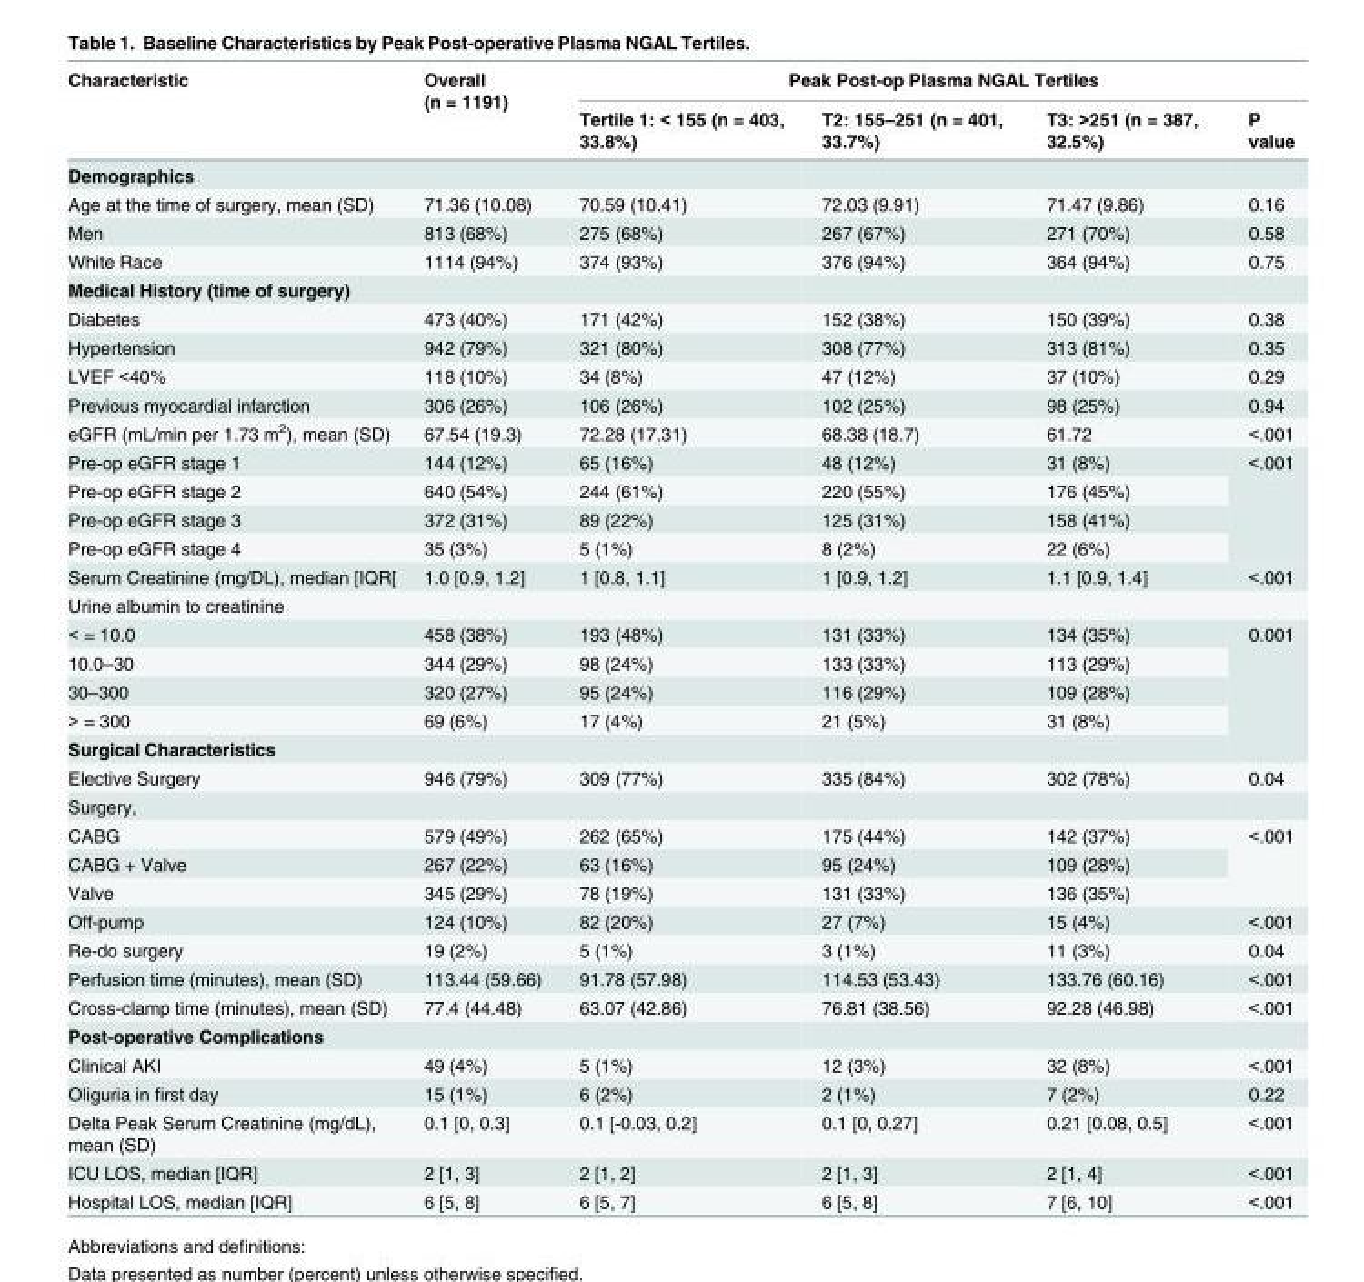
<table><thead><tr><td rowspan="2">Characteristic</td><td rowspan="2">Overall (n = 1191)</td><td colspan="4">Peak Post-op Plasma NGAL Tertiles</td></tr><tr><td>Tertile 1: &lt; 155 (n = 403, 33.8%)</td><td>T2: 155–251 (n = 401, 33.7%)</td><td>T3: &gt;251 (n = 387, 32.5%)</td><td>P value</td></tr></thead><tbody><tr><td colspan="6">Demographics</td></tr><tr><td>Age at the time of surgery, mean (SD)</td><td>71.36 (10.08)</td><td>70.59 (10.41)</td><td>72.03 (9.91)</td><td>71.47 (9.86)</td><td>0.16</td></tr><tr><td>Men</td><td>813 (68%)</td><td>275 (68%)</td><td>267 (67%)</td><td>271 (70%)</td><td>0.58</td></tr><tr><td>White Race</td><td>1114 (94%)</td><td>374 (93%)</td><td>376 (94%)</td><td>364 (94%)</td><td>0.75</td></tr><tr><td colspan="6">Medical History (time of surgery)</td></tr><tr><td>Diabetes</td><td>473 (40%)</td><td>171 (42%)</td><td>152 (38%)</td><td>150 (39%)</td><td>0.38</td></tr><tr><td>Hypertension</td><td>942 (79%)</td><td>321 (80%)</td><td>308 (77%)</td><td>313 (81%)</td><td>0.35</td></tr><tr><td>LVEF &lt;40%</td><td>118 (10%)</td><td>34 (8%)</td><td>47 (12%)</td><td>37 (10%)</td><td>0.29</td></tr><tr><td>Previous myocardial infarction</td><td>306 (26%)</td><td>106 (26%)</td><td>102 (25%)</td><td>98 (25%)</td><td>0.94</td></tr><tr><td>eGFR (mL/min per 1.73 m<sup>2</sup>), mean (SD)</td><td>67.54 (19.3)</td><td>72.28 (17.31)</td><td>68.38 (18.7)</td><td>61.72</td><td>&lt;.001</td></tr><tr><td>Pre-op eGFR stage 1</td><td>144 (12%)</td><td>65 (16%)</td><td>48 (12%)</td><td>31 (8%)</td><td rowspan="4">&lt;.001</td></tr><tr><td>Pre-op eGFR stage 2</td><td>640 (54%)</td><td>244 (61%)</td><td>220 (55%)</td><td>176 (45%)</td></tr><tr><td>Pre-op eGFR stage 3</td><td>372 (31%)</td><td>89 (22%)</td><td>125 (31%)</td><td>158 (41%)</td></tr><tr><td>Pre-op eGFR stage 4</td><td>35 (3%)</td><td>5 (1%)</td><td>8 (2%)</td><td>22 (6%)</td></tr><tr><td>Serum Creatinine (mg/DL), median [IQR[</td><td>1.0 [0.9, 1.2]</td><td>1 [0.8, 1.1]</td><td>1 [0.9, 1.2]</td><td>1.1 [0.9, 1.4]</td><td>&lt;.001</td></tr><tr><td colspan="6">Urine albumin to creatinine</td></tr><tr><td>&lt; = 10.0</td><td>458 (38%)</td><td>193 (48%)</td><td>131 (33%)</td><td>134 (35%)</td><td rowspan="4">0.001</td></tr><tr><td>10.0–30</td><td>344 (29%)</td><td>98 (24%)</td><td>133 (33%)</td><td>113 (29%)</td></tr><tr><td>30–300</td><td>320 (27%)</td><td>95 (24%)</td><td>116 (29%)</td><td>109 (28%)</td></tr><tr><td>&gt; = 300</td><td>69 (6%)</td><td>17 (4%)</td><td>21 (5%)</td><td>31 (8%)</td></tr><tr><td colspan="6">Surgical Characteristics</td></tr><tr><td>Elective Surgery</td><td>946 (79%)</td><td>309 (77%)</td><td>335 (84%)</td><td>302 (78%)</td><td>0.04</td></tr><tr><td colspan="6">Surgery,</td></tr><tr><td>CABG</td><td>579 (49%)</td><td>262 (65%)</td><td>175 (44%)</td><td>142 (37%)</td><td rowspan="3">&lt;.001</td></tr><tr><td>CABG + Valve</td><td>267 (22%)</td><td>63 (16%)</td><td>95 (24%)</td><td>109 (28%)</td></tr><tr><td>Valve</td><td>345 (29%)</td><td>78 (19%)</td><td>131 (33%)</td><td>136 (35%)</td></tr><tr><td>Off-pump</td><td>124 (10%)</td><td>82 (20%)</td><td>27 (7%)</td><td>15 (4%)</td><td>&lt;.001</td></tr><tr><td>Re-do surgery</td><td>19 (2%)</td><td>5 (1%)</td><td>3 (1%)</td><td>11 (3%)</td><td>0.04</td></tr><tr><td>Perfusion time (minutes), mean (SD)</td><td>113.44 (59.66)</td><td>91.78 (57.98)</td><td>114.53 (53.43)</td><td>133.76 (60.16)</td><td>&lt;.001</td></tr><tr><td>Cross-clamp time (minutes), mean (SD)</td><td>77.4 (44.48)</td><td>63.07 (42.86)</td><td>76.81 (38.56)</td><td>92.28 (46.98)</td><td>&lt;.001</td></tr><tr><td colspan="6">Post-operative Complications</td></tr><tr><td>Clinical AKI</td><td>49 (4%)</td><td>5 (1%)</td><td>12 (3%)</td><td>32 (8%)</td><td>&lt;.001</td></tr><tr><td>Oliguria in first day</td><td>15 (1%)</td><td>6 (2%)</td><td>2 (1%)</td><td>7 (2%)</td><td>0.22</td></tr><tr><td>Delta Peak Serum Creatinine (mg/dL), mean (SD)</td><td>0.1 [0, 0.3]</td><td>0.1 [-0.03, 0.2]</td><td>0.1 [0, 0.27]</td><td>0.21 [0.08, 0.5]</td><td>&lt;.001</td></tr><tr><td>ICU LOS, median [IQR]</td><td>2 [1, 3]</td><td>2 [1, 2]</td><td>2 [1, 3]</td><td>2 [1, 4]</td><td>&lt;.001</td></tr><tr><td>Hospital LOS, median [IQR]</td><td>6 [5, 8]</td><td>6 [5, 7]</td><td>6 [5, 8]</td><td>7 [6, 10]</td><td>&lt;.001</td></tr></tbody></table>